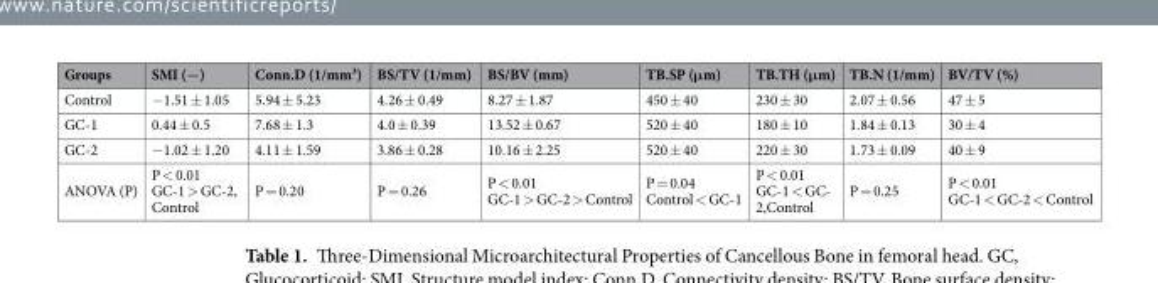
<table><thead><tr><td>Groups</td><td>SMI (−)</td><td>Conn.D (1/mm³)</td><td>BS/TV (1/mm)</td><td>BS/BV (mm)</td><td>TB.SP (μm)</td><td>TB.TH (μm)</td><td>TB.N (1/mm)</td><td>BV/TV (%)</td></tr></thead><tbody><tr><td>Control</td><td>−1.51 ± 1.05</td><td>5.94 ± 5.23</td><td>4.26 ± 0.49</td><td>8.27 ± 1.87</td><td>450 ± 40</td><td>230 ± 30</td><td>2.07 ± 0.56</td><td>47 ± 5</td></tr><tr><td>GC-1</td><td>0.44 ± 0.5</td><td>7.68 ± 1.3</td><td>4.0 ± 0.39</td><td>13.52 ± 0.67</td><td>520 ± 40</td><td>180 ± 10</td><td>1.84 ± 0.13</td><td>30 ± 4</td></tr><tr><td>GC-2</td><td>−1.02 ± 1.20</td><td>4.11 ± 1.59</td><td>3.86 ± 0.28</td><td>10.16 ± 2.25</td><td>520 ± 40</td><td>220 ± 30</td><td>1.73 ± 0.09</td><td>40 ± 9</td></tr><tr><td>ANOVA (P)</td><td>P &lt; 0.01 GC-1 &gt; GC-2, Control</td><td>P = 0.20</td><td>P = 0.26</td><td>P &lt; 0.01 GC-1 &gt; GC-2 &gt; Control</td><td>P = 0.04 Control &lt; GC-1</td><td>P &lt; 0.01 GC-1 &lt; GC- 2,Control</td><td>P = 0.25</td><td>P &lt; 0.01 GC-1 &lt; GC-2 &lt; Control</td></tr></tbody></table>